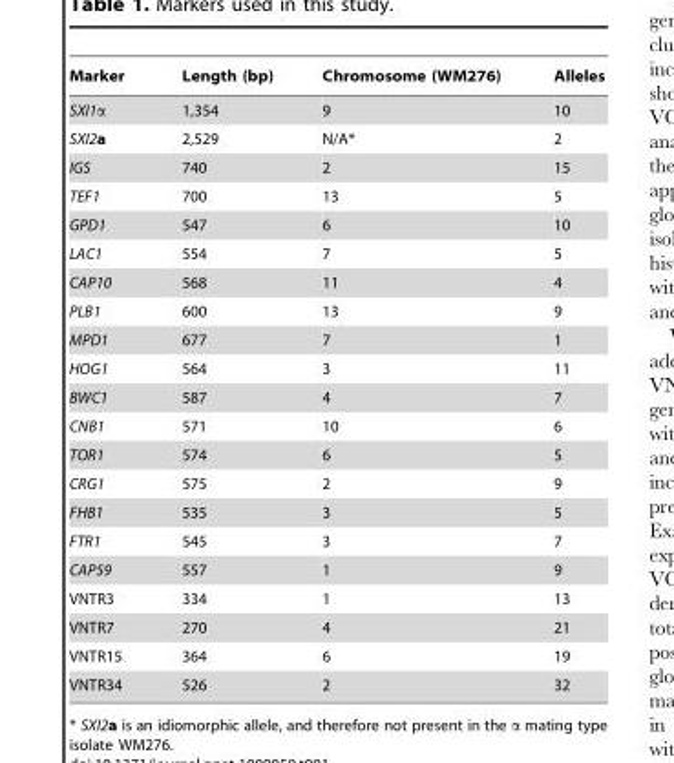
<table><thead><tr><td>Marker</td><td>Length (bp)</td><td>Chromosome (WM276)</td><td>Alleles</td></tr></thead><tbody><tr><td>SXI1α</td><td>1,354</td><td>9</td><td>10</td></tr><tr><td>SXI2a</td><td>2,529</td><td>N/A*</td><td>2</td></tr><tr><td>IGS</td><td>740</td><td>2</td><td>15</td></tr><tr><td>TEF1</td><td>700</td><td>13</td><td>5</td></tr><tr><td>GPD1</td><td>547</td><td>6</td><td>10</td></tr><tr><td>LAC1</td><td>554</td><td>7</td><td>5</td></tr><tr><td>CAP10</td><td>568</td><td>11</td><td>4</td></tr><tr><td>PLB1</td><td>600</td><td>13</td><td>9</td></tr><tr><td>MPD1</td><td>677</td><td>7</td><td>1</td></tr><tr><td>HOG1</td><td>564</td><td>3</td><td>11</td></tr><tr><td>BWC1</td><td>587</td><td>4</td><td>7</td></tr><tr><td>CNB1</td><td>571</td><td>10</td><td>6</td></tr><tr><td>TOR1</td><td>574</td><td>6</td><td>5</td></tr><tr><td>CRG1</td><td>575</td><td>2</td><td>9</td></tr><tr><td>FHB1</td><td>535</td><td>3</td><td>5</td></tr><tr><td>FTR1</td><td>545</td><td>3</td><td>7</td></tr><tr><td>CAP59</td><td>557</td><td>1</td><td>9</td></tr><tr><td>VNTR3</td><td>334</td><td>1</td><td>13</td></tr><tr><td>VNTR7</td><td>270</td><td>4</td><td>21</td></tr><tr><td>VNTR15</td><td>364</td><td>6</td><td>19</td></tr><tr><td>VNTR34</td><td>526</td><td>2</td><td>32</td></tr></tbody></table>